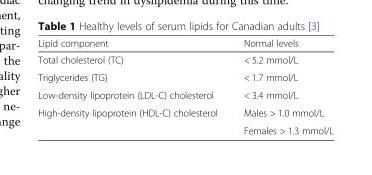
<table><thead><tr><td>Lipid component</td><td>Normal levels</td></tr></thead><tbody><tr><td>Total cholesterol (TC)</td><td>&lt; 5.2 mmol/L</td></tr><tr><td>Triglycerides (TG)</td><td>&lt; 1.7 mmol/L</td></tr><tr><td>Low-density lipoprotein (LDL-C) cholesterol</td><td>&lt; 3.4 mmol/L</td></tr><tr><td rowspan="2">High-density lipoprotein (HDL-C) cholesterol</td><td>Males &gt; 1.0 mmol/L</td></tr><tr><td>Females &gt; 1.3 mmol/L</td></tr></tbody></table>